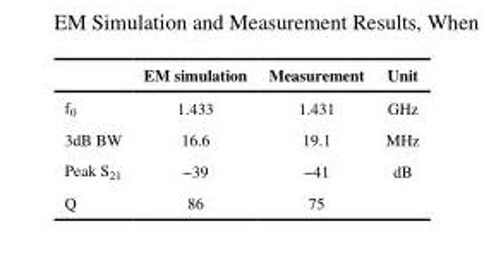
<table><thead><tr><td></td><td>EM simulation</td><td>Measurement</td><td>Unit</td></tr></thead><tbody><tr><td>f<sub>0</sub></td><td>1.433</td><td>1.431</td><td>GHz</td></tr><tr><td>3dB BW</td><td>16.6</td><td>19.1</td><td>MHz</td></tr><tr><td>Peak S<sub>21</sub></td><td>−39</td><td>−41</td><td>dB</td></tr><tr><td>Q</td><td>86</td><td>75</td><td></td></tr></tbody></table>